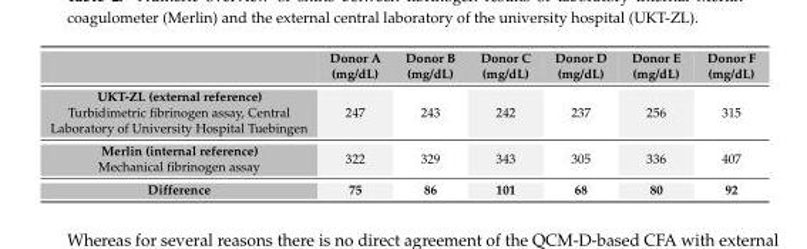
<table><thead><tr><td></td><td>Donor A (mg/dL)</td><td>Donor B (mg/dL)</td><td>Donor C (mg/dL)</td><td>Donor D (mg/dL)</td><td>Donor E (mg/dL)</td><td>Donor F (mg/dL)</td></tr></thead><tbody><tr><td>UKT-ZL (external reference) Turbidimetric fibrinogen assay, Central Laboratory of University Hospital Tuebingen</td><td>247</td><td>243</td><td>242</td><td>237</td><td>256</td><td>315</td></tr><tr><td>Merlin (internal reference) Mechanical fibrinogen assay</td><td>322</td><td>329</td><td>343</td><td>305</td><td>336</td><td>407</td></tr><tr><td>Difference</td><td>75</td><td>86</td><td>101</td><td>68</td><td>80</td><td>92</td></tr></tbody></table>